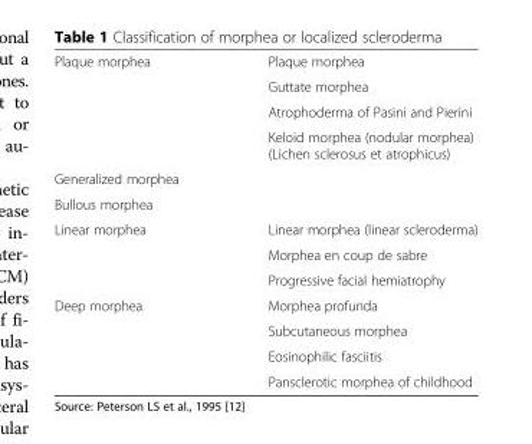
<table><tbody><tr><td rowspan="4">Plaque morphea</td><td>Plaque morphea</td></tr><tr><td>Guttate morphea</td></tr><tr><td>Atrophoderma of Pasini and Pierini</td></tr><tr><td>Keloid morphea (nodular morphea) (Lichen sclerosus et atrophicus)</td></tr><tr><td colspan="2">Generalized morphea</td></tr><tr><td colspan="2">Bullous morphea</td></tr><tr><td rowspan="3">Linear morphea</td><td>Linear morphea (linear scleroderma)</td></tr><tr><td>Morphea en coup de sabre</td></tr><tr><td>Progressive facial hemiatrophy</td></tr><tr><td rowspan="4">Deep morphea</td><td>Morphea profunda</td></tr><tr><td>Subcutaneous morphea</td></tr><tr><td>Eosinophilic fasciitis</td></tr><tr><td>Pansclerotic morphea of childhood</td></tr></tbody></table>